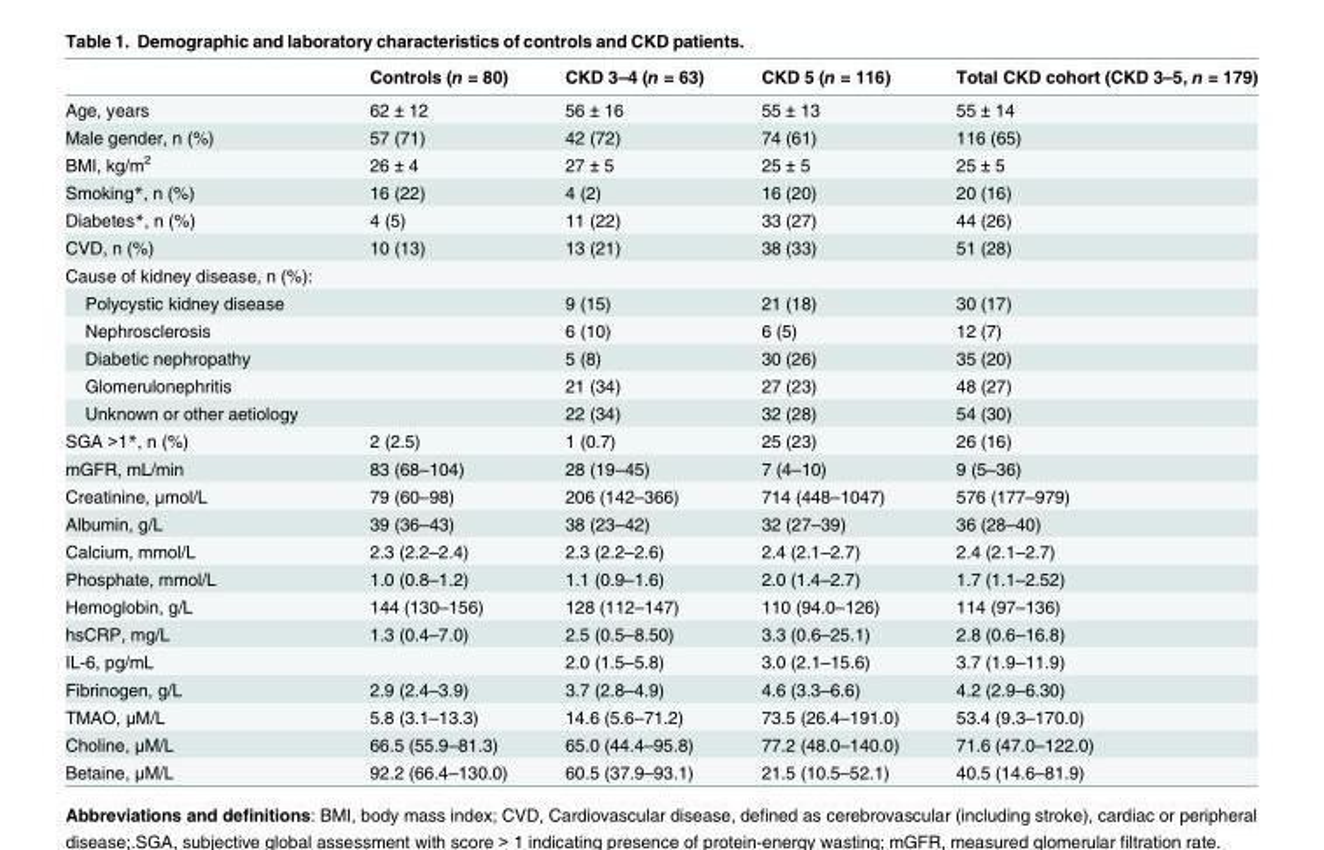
<table><thead><tr><td></td><td>Controls (n = 80)</td><td>CKD 3–4 (n = 63)</td><td>CKD 5 (n = 116)</td><td>Total CKD cohort (CKD 3–5, n = 179)</td></tr></thead><tbody><tr><td>Age, years</td><td>62 ± 12</td><td>56 ± 16</td><td>55 ± 13</td><td>55 ± 14</td></tr><tr><td>Male gender, n (%)</td><td>57 (71)</td><td>42 (72)</td><td>74 (61)</td><td>116 (65)</td></tr><tr><td>BMI, kg/m<sup>2</sup></td><td>26 ± 4</td><td>27 ± 5</td><td>25 ± 5</td><td>25 ± 5</td></tr><tr><td>Smoking*, n (%)</td><td>16 (22)</td><td>4 (2)</td><td>16 (20)</td><td>20 (16)</td></tr><tr><td>Diabetes*, n (%)</td><td>4 (5)</td><td>11 (22)</td><td>33 (27)</td><td>44 (26)</td></tr><tr><td>CVD, n (%)</td><td>10 (13)</td><td>13 (21)</td><td>38 (33)</td><td>51 (28)</td></tr><tr><td colspan="5">Cause of kidney disease, n (%):</td></tr><tr><td>Polycystic kidney disease</td><td></td><td>9 (15)</td><td>21 (18)</td><td>30 (17)</td></tr><tr><td>Nephrosclerosis</td><td></td><td>6 (10)</td><td>6 (5)</td><td>12 (7)</td></tr><tr><td>Diabetic nephropathy</td><td></td><td>5 (8)</td><td>30 (26)</td><td>35 (20)</td></tr><tr><td>Glomerulonephritis</td><td></td><td>21 (34)</td><td>27 (23)</td><td>48 (27)</td></tr><tr><td>Unknown or other aetiology</td><td></td><td>22 (34)</td><td>32 (28)</td><td>54 (30)</td></tr><tr><td>SGA &gt;1*, n (%)</td><td>2 (2.5)</td><td>1 (0.7)</td><td>25 (23)</td><td>26 (16)</td></tr><tr><td>mGFR, mL/min</td><td>83 (68–104)</td><td>28 (19–45)</td><td>7 (4–10)</td><td>9 (5–36)</td></tr><tr><td>Creatinine, μmol/L</td><td>79 (60–98)</td><td>206 (142–366)</td><td>714 (448–1047)</td><td>576 (177–979)</td></tr><tr><td>Albumin, g/L</td><td>39 (36–43)</td><td>38 (23–42)</td><td>32 (27–39)</td><td>36 (28–40)</td></tr><tr><td>Calcium, mmol/L</td><td>2.3 (2.2–2.4)</td><td>2.3 (2.2–2.6)</td><td>2.4 (2.1–2.7)</td><td>2.4 (2.1–2.7)</td></tr><tr><td>Phosphate, mmol/L</td><td>1.0 (0.8–1.2)</td><td>1.1 (0.9–1.6)</td><td>2.0 (1.4–2.7)</td><td>1.7 (1.1–2.52)</td></tr><tr><td>Hemoglobin, g/L</td><td>144 (130–156)</td><td>128 (112–147)</td><td>110 (94.0–126)</td><td>114 (97–136)</td></tr><tr><td>hsCRP, mg/L</td><td>1.3 (0.4–7.0)</td><td>2.5 (0.5–8.50)</td><td>3.3 (0.6–25.1)</td><td>2.8 (0.6–16.8)</td></tr><tr><td>IL-6, pg/mL</td><td></td><td>2.0 (1.5–5.8)</td><td>3.0 (2.1–15.6)</td><td>3.7 (1.9–11.9)</td></tr><tr><td>Fibrinogen, g/L</td><td>2.9 (2.4–3.9)</td><td>3.7 (2.8–4.9)</td><td>4.6 (3.3–6.6)</td><td>4.2 (2.9–6.30)</td></tr><tr><td>TMAO, μM/L</td><td>5.8 (3.1–13.3)</td><td>14.6 (5.6–71.2)</td><td>73.5 (26.4–191.0)</td><td>53.4 (9.3–170.0)</td></tr><tr><td>Choline, μM/L</td><td>66.5 (55.9–81.3)</td><td>65.0 (44.4–95.8)</td><td>77.2 (48.0–140.0)</td><td>71.6 (47.0–122.0)</td></tr><tr><td>Betaine, μM/L</td><td>92.2 (66.4–130.0)</td><td>60.5 (37.9–93.1)</td><td>21.5 (10.5–52.1)</td><td>40.5 (14.6–81.9)</td></tr></tbody></table>